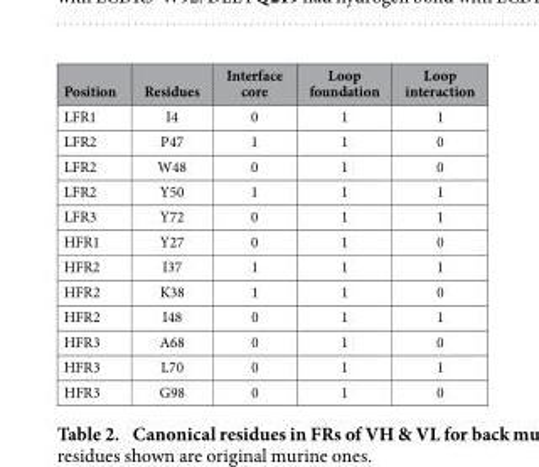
<table><thead><tr><td>Position</td><td>Residues</td><td>Interface core</td><td>Loop foundation</td><td>Loop interaction</td></tr></thead><tbody><tr><td>LFR1</td><td>I4</td><td>0</td><td>1</td><td>1</td></tr><tr><td>LFR2</td><td>P47</td><td>1</td><td>1</td><td>0</td></tr><tr><td>LFR2</td><td>W48</td><td>0</td><td>1</td><td>0</td></tr><tr><td>LFR2</td><td>Y50</td><td>1</td><td>1</td><td>1</td></tr><tr><td>LFR3</td><td>Y72</td><td>0</td><td>1</td><td>1</td></tr><tr><td>HFR1</td><td>Y27</td><td>0</td><td>1</td><td>0</td></tr><tr><td>HFR2</td><td>I37</td><td>1</td><td>1</td><td>1</td></tr><tr><td>HFR2</td><td>K38</td><td>1</td><td>1</td><td>0</td></tr><tr><td>HFR2</td><td>I48</td><td>0</td><td>1</td><td>1</td></tr><tr><td>HFR3</td><td>A68</td><td>0</td><td>1</td><td>0</td></tr><tr><td>HFR3</td><td>L70</td><td>0</td><td>1</td><td>1</td></tr><tr><td>HFR3</td><td>G98</td><td>0</td><td>1</td><td>0</td></tr></tbody></table>